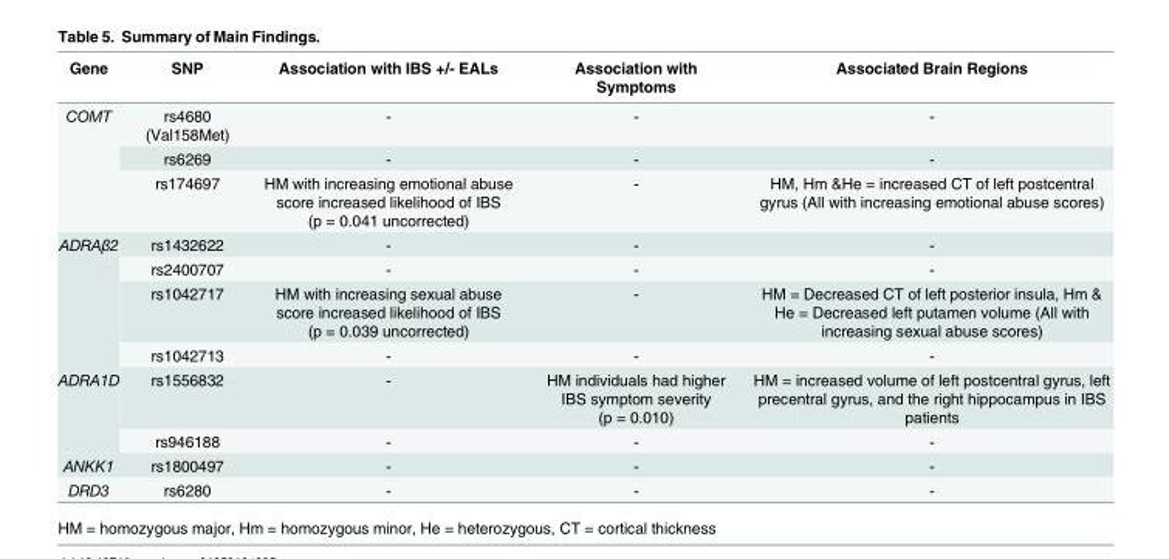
<table><thead><tr><td>Gene</td><td>SNP</td><td>Association with IBS +/- EALs</td><td>Association with Symptoms</td><td>Associated Brain Regions</td></tr></thead><tbody><tr><td rowspan="3">COMT</td><td>rs4680 (Val158Met)</td><td>-</td><td>-</td><td>-</td></tr><tr><td>rs6269</td><td>-</td><td>-</td><td>-</td></tr><tr><td>rs174697</td><td>HM with increasing emotional abuse score increased likelihood of IBS (p = 0.041 uncorrected)</td><td>-</td><td>HM, Hm &amp;He = increased CT of left postcentral gyrus (All with increasing emotional abuse scores)</td></tr><tr><td rowspan="4">ADRAβ2</td><td>rs1432622</td><td>-</td><td>-</td><td>-</td></tr><tr><td>rs2400707</td><td>-</td><td>-</td><td>-</td></tr><tr><td>rs1042717</td><td>HM with increasing sexual abuse score increased likelihood of IBS (p = 0.039 uncorrected)</td><td>-</td><td>HM = Decreased CT of left posterior insula, Hm &amp; He = Decreased left putamen volume (All with increasing sexual abuse scores)</td></tr><tr><td>rs1042713</td><td>-</td><td>-</td><td>-</td></tr><tr><td rowspan="2">ADRA1D</td><td>rs1556832</td><td>-</td><td>HM individuals had higher IBS symptom severity (p = 0.010)</td><td>HM = increased volume of left postcentral gyrus, left precentral gyrus, and the right hippocampus in IBS patients</td></tr><tr><td>rs946188</td><td>-</td><td>-</td><td>-</td></tr><tr><td>ANKK1</td><td>rs1800497</td><td>-</td><td>-</td><td>-</td></tr><tr><td>DRD3</td><td>rs6280</td><td>-</td><td>-</td><td>-</td></tr></tbody></table>